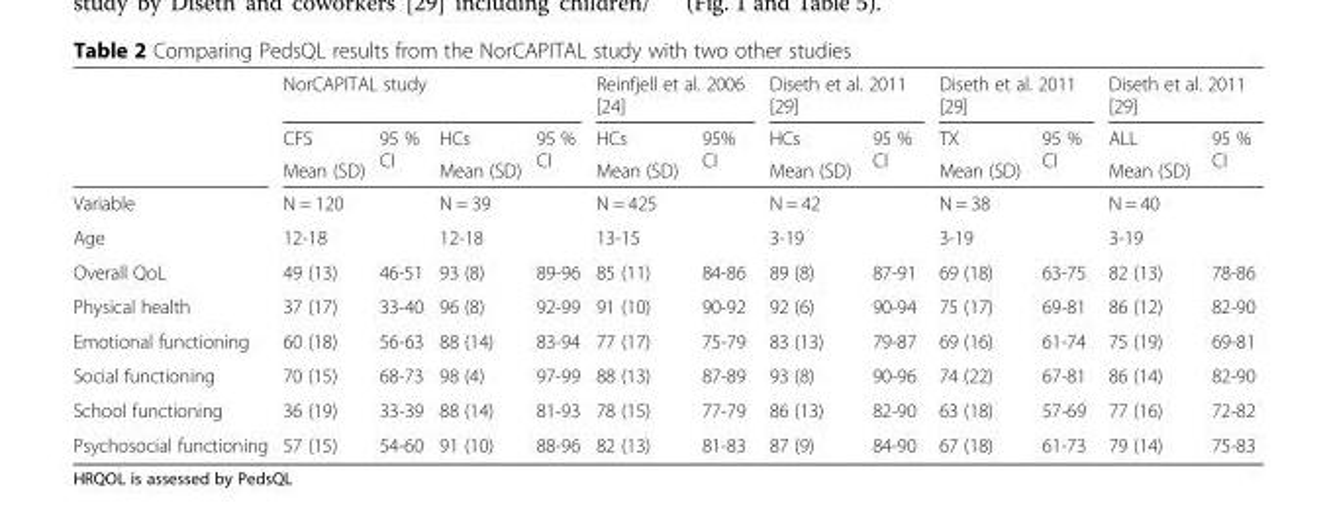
<table><thead><tr><td rowspan="3"></td><td colspan="4">NorCAPITAL study</td><td colspan="2">Reinfjell et al. 2006 [24]</td><td colspan="2">Diseth et al. 2011 [29]</td><td colspan="2">Diseth et al. 2011 [29]</td><td colspan="2">Diseth et al. 2011 [29]</td></tr><tr><td rowspan="2">CFS Mean (SD)</td><td rowspan="2">95 % CI</td><td rowspan="2">HCs Mean (SD)</td><td rowspan="2">95 % CI</td><td rowspan="2">HCs Mean (SD)</td><td rowspan="2">95% CI</td><td rowspan="2">HCs Mean (SD)</td><td rowspan="2">95 % CI</td><td rowspan="2">TX Mean (SD)</td><td rowspan="2">95 % CI</td><td rowspan="2">ALL Mean (SD)</td><td rowspan="2">95 % CI</td></tr><tr></tr></thead><tbody><tr><td>Variable</td><td>N = 120</td><td rowspan="2"></td><td>N = 39</td><td rowspan="2"></td><td>N = 425</td><td rowspan="2"></td><td>N = 42</td><td rowspan="2"></td><td>N = 38</td><td rowspan="2"></td><td>N = 40</td><td rowspan="2"></td></tr><tr><td>Age</td><td>12-18</td><td>12-18</td><td>13-15</td><td>3-19</td><td>3-19</td><td>3-19</td></tr><tr><td>Overall QoL</td><td>49 (13)</td><td>46-51</td><td>93 (8)</td><td>89-96</td><td>85 (11)</td><td>84-86</td><td>89 (8)</td><td>87-91</td><td>69 (18)</td><td>63-75</td><td>82 (13)</td><td>78-86</td></tr><tr><td>Physical health</td><td>37 (17)</td><td>33-40</td><td>96 (8)</td><td>92-99</td><td>91 (10)</td><td>90-92</td><td>92 (6)</td><td>90-94</td><td>75 (17)</td><td>69-81</td><td>86 (12)</td><td>82-90</td></tr><tr><td>Emotional functioning</td><td>60 (18)</td><td>56-63</td><td>88 (14)</td><td>83-94</td><td>77 (17)</td><td>75-79</td><td>83 (13)</td><td>79-87</td><td>69 (16)</td><td>61-74</td><td>75 (19)</td><td>69-81</td></tr><tr><td>Social functioning</td><td>70 (15)</td><td>68-73</td><td>98 (4)</td><td>97-99</td><td>88 (13)</td><td>87-89</td><td>93 (8)</td><td>90-96</td><td>74 (22)</td><td>67-81</td><td>86 (14)</td><td>82-90</td></tr><tr><td>School functioning</td><td>36 (19)</td><td>33-39</td><td>88 (14)</td><td>81-93</td><td>78 (15)</td><td>77-79</td><td>86 (13)</td><td>82-90</td><td>63 (18)</td><td>57-69</td><td>77 (16)</td><td>72-82</td></tr><tr><td>Psychosocial functioning</td><td>57 (15)</td><td>54-60</td><td>91 (10)</td><td>88-96</td><td>82 (13)</td><td>81-83</td><td>87 (9)</td><td>84-90</td><td>67 (18)</td><td>61-73</td><td>79 (14)</td><td>75-83</td></tr></tbody></table>